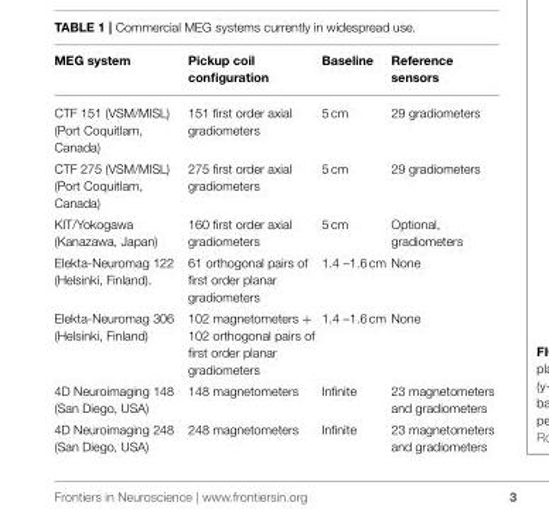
<table><thead><tr><td>MEG system</td><td>Pickup coil configuration</td><td>Baseline</td><td>Reference sensors</td></tr></thead><tbody><tr><td>CTF 151 (VSM/MISL) (Port Coquitlam, Canada)</td><td>151 first order axial gradiometers</td><td>5 cm</td><td>29 gradiometers</td></tr><tr><td>CTF 275 (VSM/MISL) (Port Coquitlam, Canada)</td><td>275 first order axial gradiometers</td><td>5 cm</td><td>29 gradiometers</td></tr><tr><td>KIT/Yokogawa (Kanazawa, Japan)</td><td>160 first order axial gradiometers</td><td>5 cm</td><td>Optional, gradiometers</td></tr><tr><td>Elekta-Neuromag 122 (Helsinki, Finland).</td><td>61 orthogonal pairs of first order planar gradiometers</td><td>1.4 –1.6 cm</td><td>None</td></tr><tr><td>Elekta-Neuromag 306 (Helsinki, Finland)</td><td>102 magnetometers + 102 orthogonal pairs of first order planar gradiometers</td><td>1.4 –1.6 cm</td><td>None</td></tr><tr><td>4D Neuroimaging 148 (San Diego, USA)</td><td>148 magnetometers</td><td>Infinite</td><td>23 magnetometers and gradiometers</td></tr><tr><td>4D Neuroimaging 248 (San Diego, USA)</td><td>248 magnetometers</td><td>Infinite</td><td>23 magnetometers and gradiometers</td></tr></tbody></table>